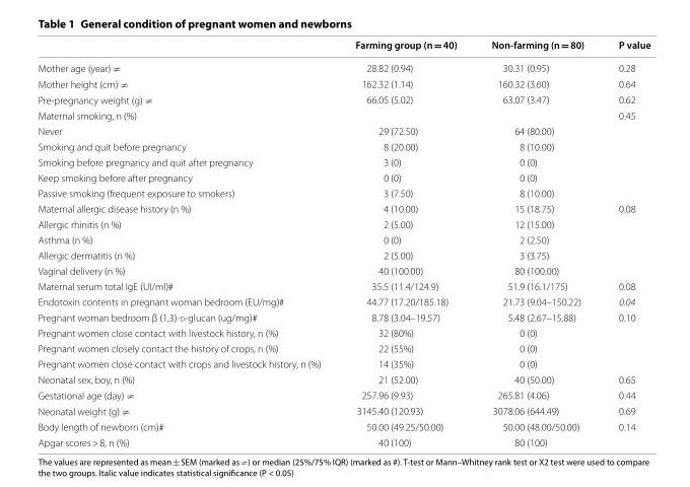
<table><thead><tr><td></td><td>Farming group (n = 40)</td><td>Non‑farming (n = 80)</td><td>P value</td></tr></thead><tbody><tr><td>Mother age (year) ≠</td><td>28.82 (0.94)</td><td>30.31 (0.95)</td><td>0.28</td></tr><tr><td>Mother height (cm) ≠</td><td>162.32 (1.14)</td><td>160.32 (3.60)</td><td>0.64</td></tr><tr><td>Pre-pregnancy weight (g) ≠</td><td>66.05 (5.02)</td><td>63.07 (3.47)</td><td>0.62</td></tr><tr><td>Maternal smoking, n (%)</td><td></td><td></td><td>0.45</td></tr><tr><td>Never</td><td>29 (72.50)</td><td>64 (80.00)</td><td></td></tr><tr><td>Smoking and quit before pregnancy</td><td>8 (20.00)</td><td>8 (10.00)</td><td></td></tr><tr><td>Smoking before pregnancy and quit after pregnancy</td><td>3 (0)</td><td>0 (0)</td><td></td></tr><tr><td>Keep smoking before after pregnancy</td><td>0 (0)</td><td>0 (0)</td><td></td></tr><tr><td>Passive smoking (frequent exposure to smokers)</td><td>3 (7.50)</td><td>8 (10.00)</td><td></td></tr><tr><td>Maternal allergic disease history (n %)</td><td>4 (10.00)</td><td>15 (18.75)</td><td>0.08</td></tr><tr><td>Allergic rhinitis (n %)</td><td>2 (5.00)</td><td>12 (15.00)</td><td></td></tr><tr><td>Asthma (n %)</td><td>0 (0)</td><td>2 (2.50)</td><td></td></tr><tr><td>Allergic dermatitis (n %)</td><td>2 (5.00)</td><td>3 (3.75)</td><td></td></tr><tr><td>Vaginal delivery (n %)</td><td>40 (100.00)</td><td>80 (100.00)</td><td></td></tr><tr><td>Maternal serum total IgE (UI/ml)#</td><td>35.5 (11.4/124.9)</td><td>51.9 (16.1/175)</td><td>0.08</td></tr><tr><td>Endotoxin contents in pregnant woman bedroom (EU/mg)#</td><td>44.77 (17.20/185.18)</td><td>21.73 (9.04–150.22)</td><td>0.04</td></tr><tr><td>Pregnant woman bedroom β (1,3)-d-glucan (ug/mg)#</td><td>8.78 (3.04–19.57)</td><td>5.48 (2.67–15.88)</td><td>0.10</td></tr><tr><td>Pregnant women close contact with livestock history, n (%)</td><td>32 (80%)</td><td>0 (0)</td><td></td></tr><tr><td>Pregnant women closely contact the history of crops, n (%)</td><td>22 (55%)</td><td>0 (0)</td><td></td></tr><tr><td>Pregnant women close contact with crops and livestock history, n (%)</td><td>14 (35%)</td><td>0 (0)</td><td></td></tr><tr><td>Neonatal sex, boy, n (%)</td><td>21 (52.00)</td><td>40 (50.00)</td><td>0.65</td></tr><tr><td>Gestational age (day) ≠</td><td>257.96 (9.93)</td><td>265.81 (4.06)</td><td>0.44</td></tr><tr><td>Neonatal weight (g) ≠</td><td>3145.40 (120.93)</td><td>3078.06 (644.49)</td><td>0.69</td></tr><tr><td>Body length of newborn (cm)#</td><td>50.00 (49.25/50.00)</td><td>50.00 (48.00/50.00)</td><td>0.14</td></tr><tr><td>Apgar scores &gt; 8, n (%)</td><td>40 (100)</td><td>80 (100)</td><td></td></tr></tbody></table>